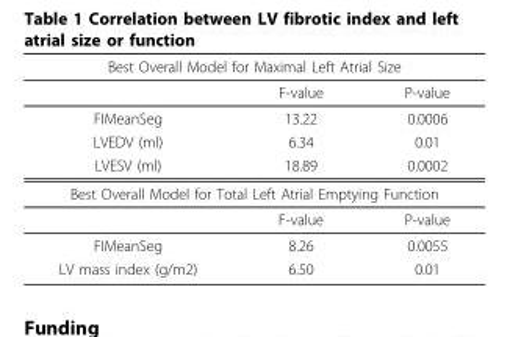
<table><thead><tr><td colspan="3">Best Overall Model for Maximal Left Atrial Size</td></tr><tr><td></td><td>F-value</td><td>P-value</td></tr></thead><tbody><tr><td>FIMeanSeg</td><td>13.22</td><td>0.0006</td></tr><tr><td>LVEDV (ml)</td><td>6.34</td><td>0.01</td></tr><tr><td>LVESV (ml)</td><td>18.89</td><td>0.0002</td></tr><tr><td colspan="3">Best Overall Model for Total Left Atrial Emptying Function</td></tr><tr><td></td><td>F-value</td><td>P-value</td></tr><tr><td>FIMeanSeg</td><td>8.26</td><td>0.0055</td></tr><tr><td>LV mass index (g/m2)</td><td>6.50</td><td>0.01</td></tr></tbody></table>